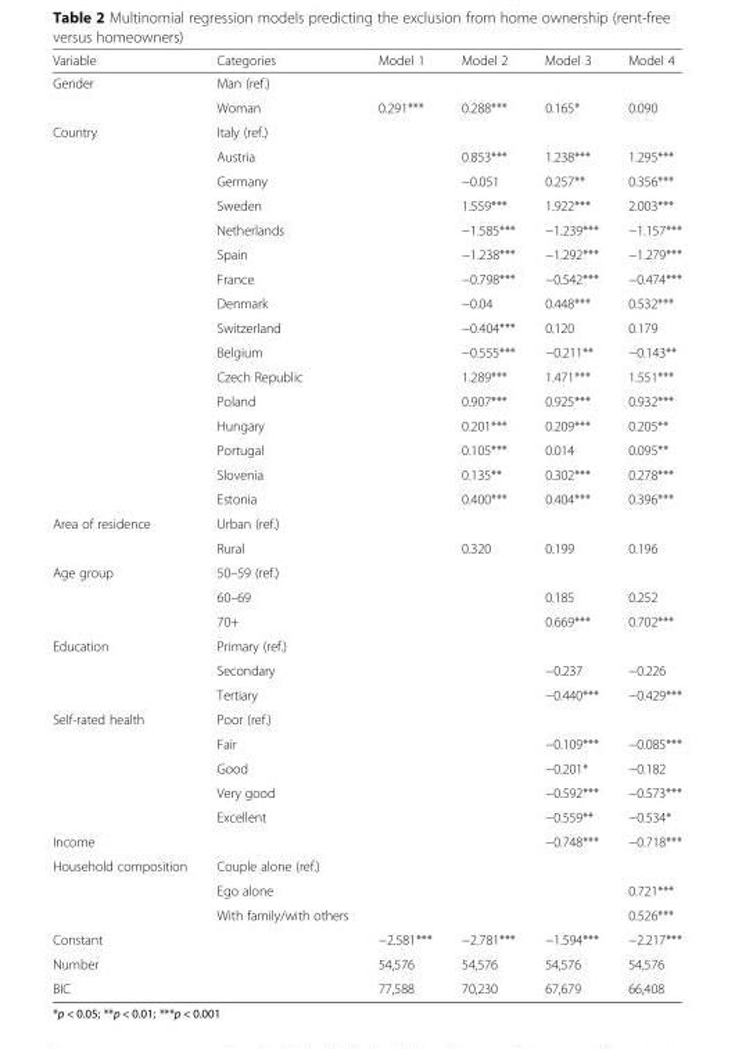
<table><thead><tr><td>Variable</td><td>Categories</td><td>Model 1</td><td>Model 2</td><td>Model 3</td><td>Model 4</td></tr></thead><tbody><tr><td rowspan="2">Gender</td><td>Man (ref.)</td><td></td><td></td><td></td><td></td></tr><tr><td>Woman</td><td>0.291***</td><td>0.288***</td><td>0.165*</td><td>0.090</td></tr><tr><td rowspan="16">Country</td><td>Italy (ref.)</td><td></td><td></td><td></td><td></td></tr><tr><td>Austria</td><td></td><td>0.853***</td><td>1.238***</td><td>1.295***</td></tr><tr><td>Germany</td><td></td><td>−0.051</td><td>0.257**</td><td>0.356***</td></tr><tr><td>Sweden</td><td></td><td>1.559***</td><td>1.922***</td><td>2.003***</td></tr><tr><td>Netherlands</td><td></td><td>−1.585***</td><td>−1.239***</td><td>−1.157***</td></tr><tr><td>Spain</td><td></td><td>−1.238***</td><td>−1.292***</td><td>−1.279***</td></tr><tr><td>France</td><td></td><td>−0.798***</td><td>−0.542***</td><td>−0.474***</td></tr><tr><td>Denmark</td><td></td><td>−0.04</td><td>0.448***</td><td>0.532***</td></tr><tr><td>Switzerland</td><td></td><td>−0.404***</td><td>0.120</td><td>0.179</td></tr><tr><td>Belgium</td><td></td><td>−0.555***</td><td>−0.211**</td><td>−0.143**</td></tr><tr><td>Czech Republic</td><td></td><td>1.289***</td><td>1.471***</td><td>1.551***</td></tr><tr><td>Poland</td><td></td><td>0.907***</td><td>0.925***</td><td>0.932***</td></tr><tr><td>Hungary</td><td></td><td>0.201***</td><td>0.209***</td><td>0.205**</td></tr><tr><td>Portugal</td><td></td><td>0.105***</td><td>0.014</td><td>0.095**</td></tr><tr><td>Slovenia</td><td></td><td>0.135**</td><td>0.302***</td><td>0.278***</td></tr><tr><td>Estonia</td><td></td><td>0.400***</td><td>0.404***</td><td>0.396***</td></tr><tr><td rowspan="2">Area of residence</td><td>Urban (ref.)</td><td></td><td></td><td></td><td></td></tr><tr><td>Rural</td><td></td><td>0.320</td><td>0.199</td><td>0.196</td></tr><tr><td rowspan="3">Age group</td><td>50–59 (ref.)</td><td></td><td></td><td></td><td></td></tr><tr><td>60–69</td><td></td><td></td><td>0.185</td><td>0.252</td></tr><tr><td>70+</td><td></td><td></td><td>0.669***</td><td>0.702***</td></tr><tr><td rowspan="3">Education</td><td>Primary (ref.)</td><td></td><td></td><td></td><td></td></tr><tr><td>Secondary</td><td></td><td></td><td>−0.237</td><td>−0.226</td></tr><tr><td>Tertiary</td><td></td><td></td><td>−0.440***</td><td>−0.429***</td></tr><tr><td rowspan="5">Self-rated health</td><td>Poor (ref.)</td><td></td><td></td><td></td><td></td></tr><tr><td>Fair</td><td></td><td></td><td>−0.109***</td><td>−0.085***</td></tr><tr><td>Good</td><td></td><td></td><td>−0.201*</td><td>−0.182</td></tr><tr><td>Very good</td><td></td><td></td><td>−0.592***</td><td>−0.573***</td></tr><tr><td>Excellent</td><td></td><td></td><td>−0.559**</td><td>−0.534*</td></tr><tr><td>Income</td><td></td><td></td><td></td><td>−0.748***</td><td>−0.718***</td></tr><tr><td rowspan="3">Household composition</td><td>Couple alone (ref.)</td><td></td><td></td><td></td><td></td></tr><tr><td>Ego alone</td><td></td><td></td><td></td><td>0.721***</td></tr><tr><td>With family/with others</td><td></td><td></td><td></td><td>0.526***</td></tr><tr><td>Constant</td><td></td><td>−2.581***</td><td>−2.781***</td><td>−1.594***</td><td>−2.217***</td></tr><tr><td>Number</td><td></td><td>54,576</td><td>54,576</td><td>54,576</td><td>54,576</td></tr><tr><td>BIC</td><td></td><td>77,588</td><td>70,230</td><td>67,679</td><td>66,408</td></tr></tbody></table>